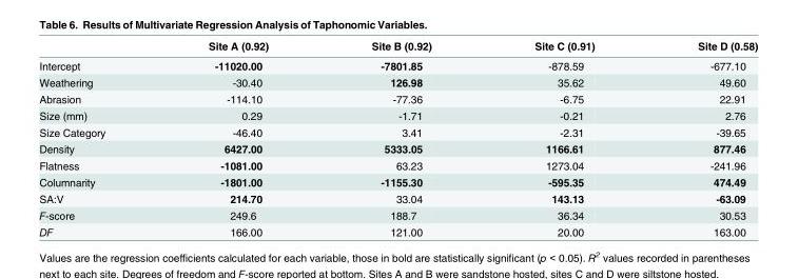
<table><thead><tr><td></td><td>Site A (0.92)</td><td>Site B (0.92)</td><td>Site C (0.91)</td><td>Site D (0.58)</td></tr></thead><tbody><tr><td>Intercept</td><td>-11020.00</td><td>-7801.85</td><td>-878.59</td><td>-677.10</td></tr><tr><td>Weathering</td><td>-30.40</td><td>126.98</td><td>35.62</td><td>49.60</td></tr><tr><td>Abrasion</td><td>-114.10</td><td>-77.36</td><td>-6.75</td><td>22.91</td></tr><tr><td>Size (mm)</td><td>0.29</td><td>-1.71</td><td>-0.21</td><td>2.76</td></tr><tr><td>Size Category</td><td>-46.40</td><td>3.41</td><td>-2.31</td><td>-39.65</td></tr><tr><td>Density</td><td>6427.00</td><td>5333.05</td><td>1166.61</td><td>877.46</td></tr><tr><td>Flatness</td><td>-1081.00</td><td>63.23</td><td>1273.04</td><td>-241.96</td></tr><tr><td>Columnarity</td><td>-1801.00</td><td>-1155.30</td><td>-595.35</td><td>474.49</td></tr><tr><td>SA:V</td><td>214.70</td><td>33.04</td><td>143.13</td><td>-63.09</td></tr><tr><td>F-score</td><td>249.6</td><td>188.7</td><td>36.34</td><td>30.53</td></tr><tr><td>DF</td><td>166.00</td><td>121.00</td><td>20.00</td><td>163.00</td></tr></tbody></table>